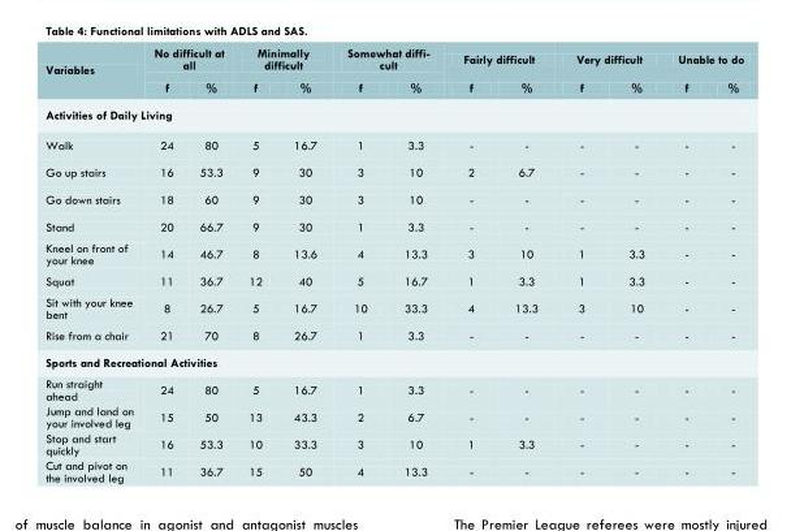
<table><thead><tr><td rowspan="2">Variables</td><td colspan="2">No difficult at all</td><td colspan="2">Minimally difficult</td><td colspan="2">Somewhat diffi- cult</td><td colspan="2">Fairly difficult</td><td colspan="2">Very difficult</td><td colspan="2">Unable to do</td></tr><tr><td>f</td><td>%</td><td>f</td><td>%</td><td>f</td><td>%</td><td>f</td><td>%</td><td>f</td><td>%</td><td>f</td><td>%</td></tr></thead><tbody><tr><td colspan="13">Activities of Daily Living</td></tr><tr><td>Walk</td><td>24</td><td>80</td><td>5</td><td>16.7</td><td>1</td><td>3.3</td><td>-</td><td>-</td><td>-</td><td>-</td><td>-</td><td>-</td></tr><tr><td>Go up stairs</td><td>16</td><td>53.3</td><td>9</td><td>30</td><td>3</td><td>10</td><td>2</td><td>6.7</td><td>-</td><td>-</td><td>-</td><td>-</td></tr><tr><td>Go down stairs</td><td>18</td><td>60</td><td>9</td><td>30</td><td>3</td><td>10</td><td>-</td><td>-</td><td>-</td><td>-</td><td>-</td><td>-</td></tr><tr><td>Stand</td><td>20</td><td>66.7</td><td>9</td><td>30</td><td>1</td><td>3.3</td><td>-</td><td>-</td><td>-</td><td>-</td><td>-</td><td>-</td></tr><tr><td>Kneel on front of your knee</td><td>14</td><td>46.7</td><td>8</td><td>13.6</td><td>4</td><td>13.3</td><td>3</td><td>10</td><td>1</td><td>3.3</td><td>-</td><td>-</td></tr><tr><td>Squat</td><td>11</td><td>36.7</td><td>12</td><td>40</td><td>5</td><td>16.7</td><td>1</td><td>3.3</td><td>1</td><td>3.3</td><td>-</td><td>-</td></tr><tr><td>Sit with your knee bent</td><td>8</td><td>26.7</td><td>5</td><td>16.7</td><td>10</td><td>33.3</td><td>4</td><td>13.3</td><td>3</td><td>10</td><td>-</td><td>-</td></tr><tr><td>Rise from a chair</td><td>21</td><td>70</td><td>8</td><td>26.7</td><td>1</td><td>3.3</td><td>-</td><td>-</td><td>-</td><td>-</td><td>-</td><td>-</td></tr><tr><td colspan="13">Sports and Recreational Activities</td></tr><tr><td>Run straight ahead</td><td>24</td><td>80</td><td>5</td><td>16.7</td><td>1</td><td>3.3</td><td>-</td><td>-</td><td>-</td><td>-</td><td>-</td><td>-</td></tr><tr><td>Jump and land on your involved leg</td><td>15</td><td>50</td><td>13</td><td>43.3</td><td>2</td><td>6.7</td><td>-</td><td>-</td><td>-</td><td>-</td><td>-</td><td>-</td></tr><tr><td>Stop and start quickly</td><td>16</td><td>53.3</td><td>10</td><td>33.3</td><td>3</td><td>10</td><td>1</td><td>3.3</td><td>-</td><td>-</td><td>-</td><td>-</td></tr><tr><td>Cut and pivot on the involved leg</td><td>11</td><td>36.7</td><td>15</td><td>50</td><td>4</td><td>13.3</td><td>-</td><td>-</td><td>-</td><td>-</td><td>-</td><td>-</td></tr></tbody></table>